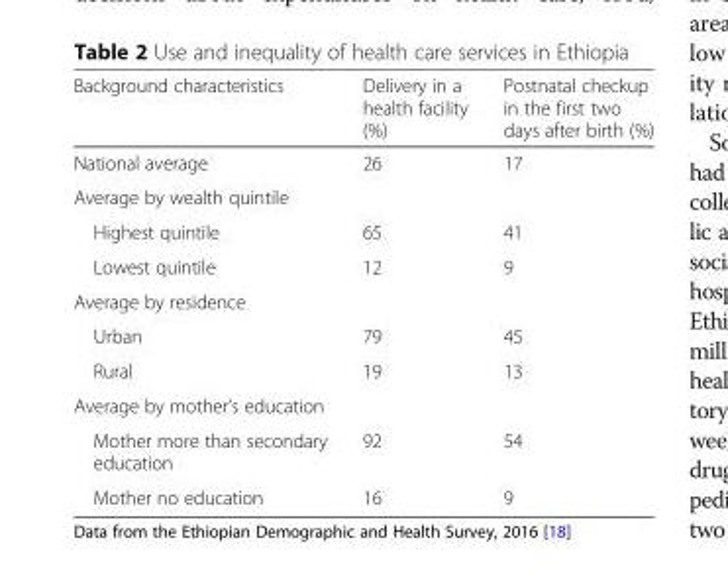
<table><thead><tr><td>Background characteristics</td><td>Delivery in a health facility (%)</td><td>Postnatal checkup in the first two days after birth (%)</td></tr></thead><tbody><tr><td>National average</td><td>26</td><td>17</td></tr><tr><td colspan="3">Average by wealth quintile</td></tr><tr><td>Highest quintile</td><td>65</td><td>41</td></tr><tr><td>Lowest quintile</td><td>12</td><td>9</td></tr><tr><td colspan="3">Average by residence</td></tr><tr><td>Urban</td><td>79</td><td>45</td></tr><tr><td>Rural</td><td>19</td><td>13</td></tr><tr><td colspan="3">Average by mother’s education</td></tr><tr><td>Mother more than secondary education</td><td>92</td><td>54</td></tr><tr><td>Mother no education</td><td>16</td><td>9</td></tr></tbody></table>